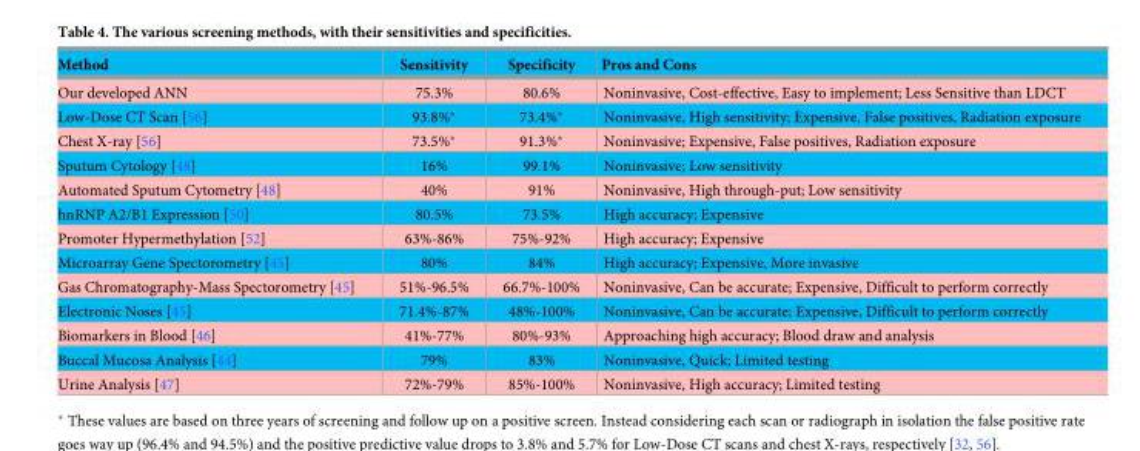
<table><thead><tr><td>Method</td><td>Sensitivity</td><td>Specificity</td><td>Pros and Cons</td></tr></thead><tbody><tr><td>Our developed ANN</td><td>75.3%</td><td>80.6%</td><td>Noninvasive, Cost-effective, Easy to implement; Less Sensitive than LDCT</td></tr><tr><td>Low-Dose CT Scan [56]</td><td>93.8%*</td><td>73.4%*</td><td>Noninvasive, High sensitivity; Expensive, False positives, Radiation exposure</td></tr><tr><td>Chest X-ray [56]</td><td>73.5%*</td><td>91.3%*</td><td>Noninvasive; Expensive, False positives, Radiation exposure</td></tr><tr><td>Sputum Cytology [48]</td><td>16%</td><td>99.1%</td><td>Noninvasive; Low sensitivity</td></tr><tr><td>Automated Sputum Cytometry [48]</td><td>40%</td><td>91%</td><td>Noninvasive, High through-put; Low sensitivity</td></tr><tr><td>hnRNP A2/B1 Expression [50]</td><td>80.5%</td><td>73.5%</td><td>High accuracy; Expensive</td></tr><tr><td>Promoter Hypermethylation [52]</td><td>63%-86%</td><td>75%-92%</td><td>High accuracy; Expensive</td></tr><tr><td>Microarray Gene Spectorometry [45]</td><td>80%</td><td>84%</td><td>High accuracy; Expensive, More invasive</td></tr><tr><td>Gas Chromatography-Mass Spectorometry [45]</td><td>51%-96.5%</td><td>66.7%-100%</td><td>Noninvasive, Can be accurate; Expensive, Difficult to perform correctly</td></tr><tr><td>Electronic Noses [45]</td><td>71.4%-87%</td><td>48%-100%</td><td>Noninvasive, Can be accurate; Expensive, Difficult to perform correctly</td></tr><tr><td>Biomarkers in Blood [46]</td><td>41%-77%</td><td>80%-93%</td><td>Approaching high accuracy; Blood draw and analysis</td></tr><tr><td>Buccal Mucosa Analysis [44]</td><td>79%</td><td>83%</td><td>Noninvasive, Quick; Limited testing</td></tr><tr><td>Urine Analysis [47]</td><td>72%-79%</td><td>85%-100%</td><td>Noninvasive, High accuracy; Limited testing</td></tr></tbody></table>